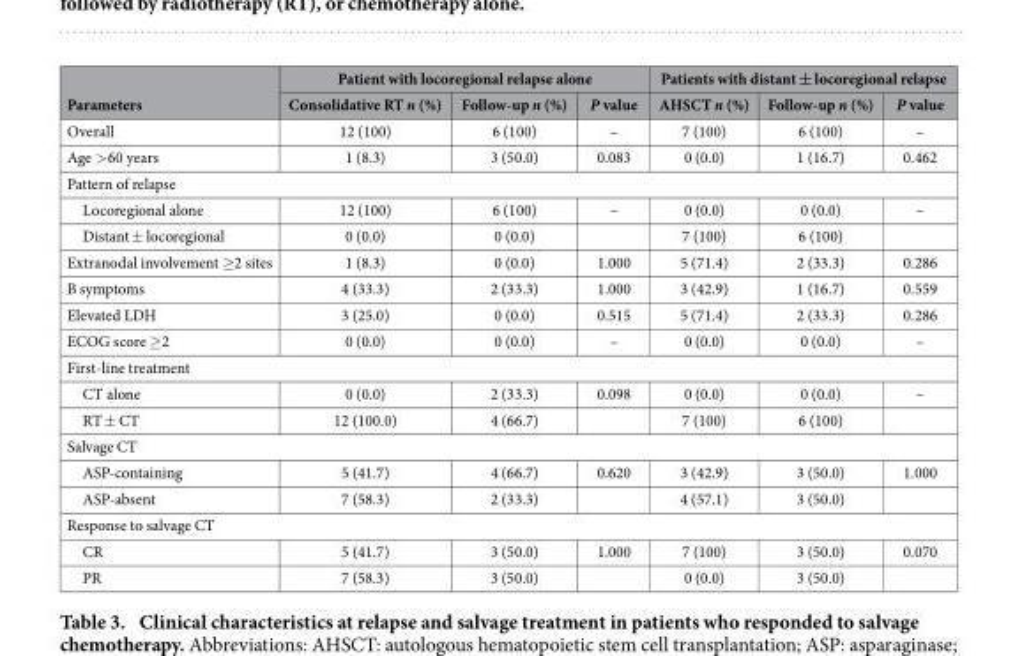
<table><thead><tr><td rowspan="2">Parameters</td><td colspan="3">Patient with locoregional relapse alone</td><td colspan="3">Patients with distant ± locoregional relapse</td></tr><tr><td>Consolidative RT n (%)</td><td>Follow-up n (%)</td><td>P value</td><td>AHSCT n (%)</td><td>Follow-up n (%)</td><td>P value</td></tr></thead><tbody><tr><td>Overall</td><td>12 (100)</td><td>6 (100)</td><td>–</td><td>7 (100)</td><td>6 (100)</td><td>–</td></tr><tr><td>Age &gt; 60 years</td><td>1 (8.3)</td><td>3 (50.0)</td><td>0.083</td><td>0 (0.0)</td><td>1 (16.7)</td><td>0.462</td></tr><tr><td colspan="7">Pattern of relapse</td></tr><tr><td>Locoregional alone</td><td>12 (100)</td><td>6 (100)</td><td>–</td><td>0 (0.0)</td><td>0 (0.0)</td><td>–</td></tr><tr><td>Distant ± locoregional</td><td>0 (0.0)</td><td>0 (0.0)</td><td></td><td>7 (100)</td><td>6 (100)</td><td></td></tr><tr><td>Extranodal involvement ≥2 sites</td><td>1 (8.3)</td><td>0 (0.0)</td><td>1.000</td><td>5 (71.4)</td><td>2 (33.3)</td><td>0.286</td></tr><tr><td>B symptoms</td><td>4 (33.3)</td><td>2 (33.3)</td><td>1.000</td><td>3 (42.9)</td><td>1 (16.7)</td><td>0.559</td></tr><tr><td>Elevated LDH</td><td>3 (25.0)</td><td>0 (0.0)</td><td>0.515</td><td>5 (71.4)</td><td>2 (33.3)</td><td>0.286</td></tr><tr><td>ECOG score ≥2</td><td>0 (0.0)</td><td>0 (0.0)</td><td>–</td><td>0 (0.0)</td><td>0 (0.0)</td><td>–</td></tr><tr><td colspan="7">First-line treatment</td></tr><tr><td>CT alone</td><td>0 (0.0)</td><td>2 (33.3)</td><td>0.098</td><td>0 (0.0)</td><td>0 (0.0)</td><td>–</td></tr><tr><td>RT ± CT</td><td>12 (100.0)</td><td>4 (66.7)</td><td></td><td>7 (100)</td><td>6 (100)</td><td></td></tr><tr><td colspan="7">Salvage CT</td></tr><tr><td>ASP-containing</td><td>5 (41.7)</td><td>4 (66.7)</td><td>0.620</td><td>3 (42.9)</td><td>3 (50.0)</td><td>1.000</td></tr><tr><td>ASP-absent</td><td>7 (58.3)</td><td>2 (33.3)</td><td></td><td>4 (57.1)</td><td>3 (50.0)</td><td></td></tr><tr><td colspan="7">Response to salvage CT</td></tr><tr><td>CR</td><td>5 (41.7)</td><td>3 (50.0)</td><td>1.000</td><td>7 (100)</td><td>3 (50.0)</td><td>0.070</td></tr><tr><td>PR</td><td>7 (58.3)</td><td>3 (50.0)</td><td></td><td>0 (0.0)</td><td>3 (50.0)</td><td></td></tr></tbody></table>